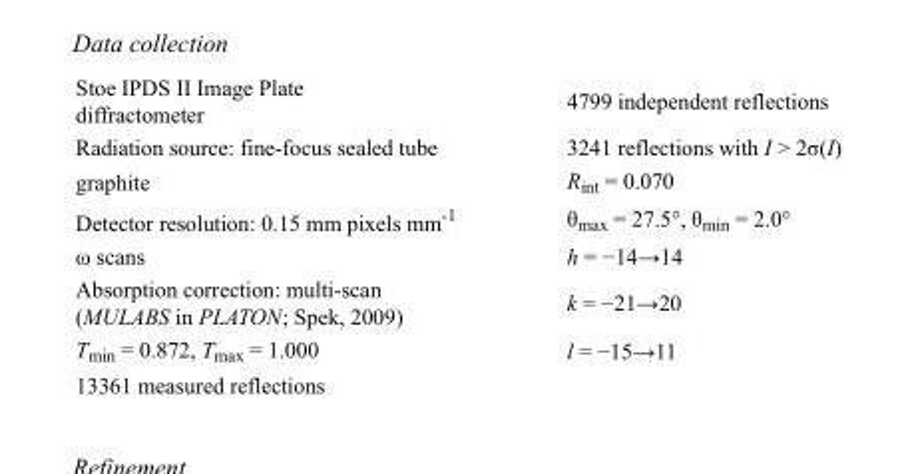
<table><tbody><tr><td>Stoe IPDS II Image Plate diffractometer</td><td>4799 independent reflections</td></tr><tr><td>Radiation source: fine-focus sealed tube</td><td>3241 reflections with I &gt; 2σ(I)</td></tr><tr><td>graphite</td><td>R<sub>int</sub> = 0.070</td></tr><tr><td>Detector resolution: 0.15 mm pixels mm<sup>-1</sup></td><td>θ<sub>max</sub> = 27.5°, θ<sub>min</sub> = 2.0°</td></tr><tr><td>ω scans</td><td>h = −14→14</td></tr><tr><td>Absorption correction: multi-scan (MULABS in PLATON; Spek, 2009)</td><td>k = −21→20</td></tr><tr><td>T<sub>min</sub> = 0.872, T<sub>max</sub> = 1.000</td><td>l = −15→11</td></tr><tr><td>13361 measured reflections</td><td></td></tr></tbody></table>